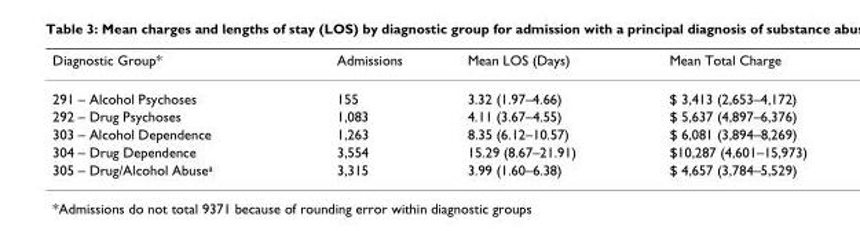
<table><thead><tr><td>Diagnostic Group*</td><td>Admissions</td><td>Mean LOS (Days)</td><td>Mean Total Charge</td></tr></thead><tbody><tr><td>291 – Alcohol Psychoses</td><td>155</td><td>3.32 (1.97–4.66)</td><td>$ 3,413 (2,653–4,172)</td></tr><tr><td>292 – Drug Psychoses</td><td>1,083</td><td>4.11 (3.67–4.55)</td><td>$ 5,637 (4,897–6,376)</td></tr><tr><td>303 – Alcohol Dependence</td><td>1,263</td><td>8.35 (6.12–10.57)</td><td>$ 6,081 (3,894–8,269)</td></tr><tr><td>304 – Drug Dependence</td><td>3,554</td><td>15.29 (8.67–21.91)</td><td>$10,287 (4,601–15,973)</td></tr><tr><td>305 – Drug/Alcohol Abuse<sup>a</sup></td><td>3,315</td><td>3.99 (1.60–6.38)</td><td>$ 4,657 (3,784–5,529)</td></tr></tbody></table>